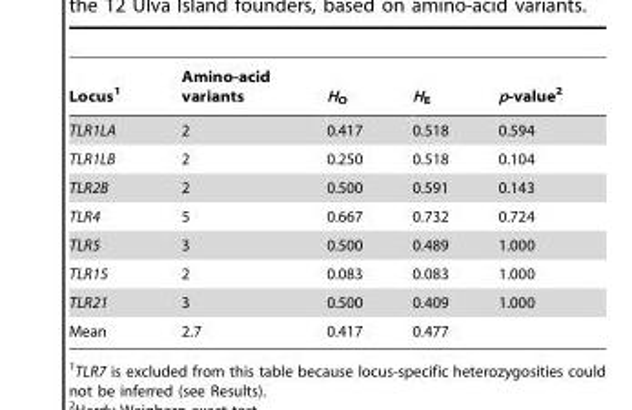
<table><thead><tr><td>Locus<sup>1</sup></td><td>Amino-acid variants</td><td>H<sub>O</sub></td><td>H<sub>E</sub></td><td>p-value<sup>2</sup></td></tr></thead><tbody><tr><td>TLR1LA</td><td>2</td><td>0.417</td><td>0.518</td><td>0.594</td></tr><tr><td>TLR1LB</td><td>2</td><td>0.250</td><td>0.518</td><td>0.104</td></tr><tr><td>TLR2B</td><td>2</td><td>0.500</td><td>0.591</td><td>0.143</td></tr><tr><td>TLR4</td><td>5</td><td>0.667</td><td>0.732</td><td>0.724</td></tr><tr><td>TLR5</td><td>3</td><td>0.500</td><td>0.489</td><td>1.000</td></tr><tr><td>TLR15</td><td>2</td><td>0.083</td><td>0.083</td><td>1.000</td></tr><tr><td>TLR21</td><td>3</td><td>0.500</td><td>0.409</td><td>1.000</td></tr><tr><td>Mean</td><td>2.7</td><td>0.417</td><td>0.477</td><td></td></tr></tbody></table>